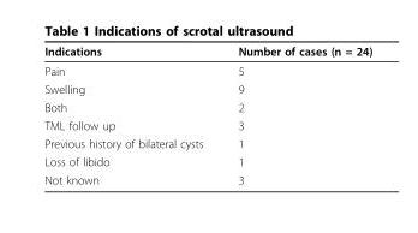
<table><thead><tr><td>Indications</td><td>Number of cases (n = 24)</td></tr></thead><tbody><tr><td>Pain</td><td>5</td></tr><tr><td>Swelling</td><td>9</td></tr><tr><td>Both</td><td>2</td></tr><tr><td>TML follow up</td><td>3</td></tr><tr><td>Previous history of bilateral cysts</td><td>1</td></tr><tr><td>Loss of libido</td><td>1</td></tr><tr><td>Not known</td><td>3</td></tr></tbody></table>